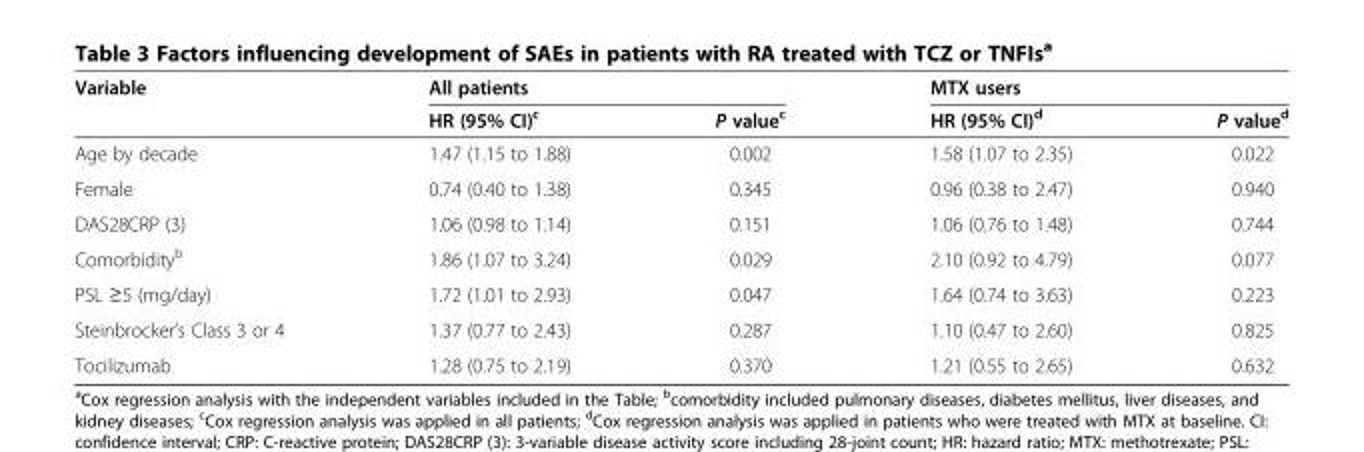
<table><thead><tr><td rowspan="2">Variable</td><td colspan="2">All patients</td><td colspan="2">MTX users</td></tr><tr><td>HR (95% CI)<sup>c</sup></td><td>P value<sup>c</sup></td><td>HR (95% CI)<sup>d</sup></td><td>P value<sup>d</sup></td></tr></thead><tbody><tr><td>Age by decade</td><td>1.47 (1.15 to 1.88)</td><td>0.002</td><td>1.58 (1.07 to 2.35)</td><td>0.022</td></tr><tr><td>Female</td><td>0.74 (0.40 to 1.38)</td><td>0.345</td><td>0.96 (0.38 to 2.47)</td><td>0.940</td></tr><tr><td>DAS28CRP (3)</td><td>1.06 (0.98 to 1.14)</td><td>0.151</td><td>1.06 (0.76 to 1.48)</td><td>0.744</td></tr><tr><td>Comorbidity<sup>b</sup></td><td>1.86 (1.07 to 3.24)</td><td>0.029</td><td>2.10 (0.92 to 4.79)</td><td>0.077</td></tr><tr><td>PSL ≥5 (mg/day)</td><td>1.72 (1.01 to 2.93)</td><td>0.047</td><td>1.64 (0.74 to 3.63)</td><td>0.223</td></tr><tr><td>Steinbrocker’s Class 3 or 4</td><td>1.37 (0.77 to 2.43)</td><td>0.287</td><td>1.10 (0.47 to 2.60)</td><td>0.825</td></tr><tr><td>Tocilizumab</td><td>1.28 (0.75 to 2.19)</td><td>0.370</td><td>1.21 (0.55 to 2.65)</td><td>0.632</td></tr></tbody></table>